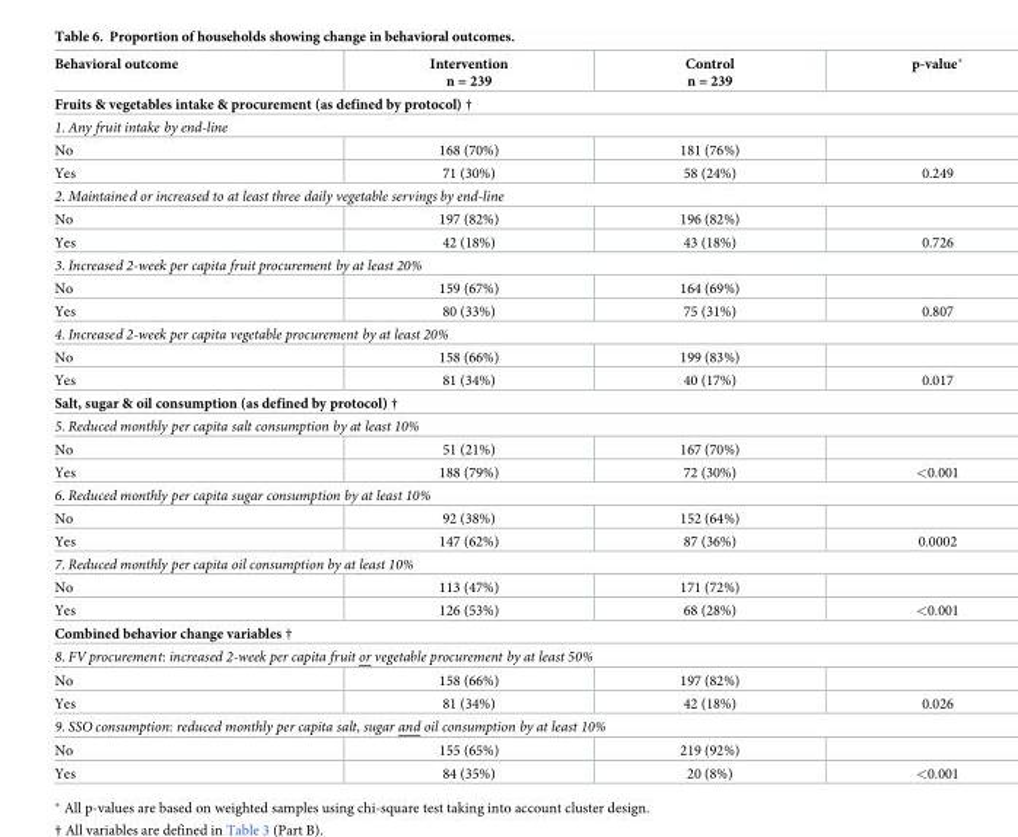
<table><thead><tr><td>Behavioral outcome</td><td>Intervention n = 239</td><td>Control n = 239</td><td>p-value*</td></tr></thead><tbody><tr><td colspan="4">Fruits &amp; vegetables intake &amp; procurement (as defined by protocol) †</td></tr><tr><td colspan="4">1. Any fruit intake by end-line</td></tr><tr><td>No</td><td>168 (70%)</td><td>181 (76%)</td><td></td></tr><tr><td>Yes</td><td>71 (30%)</td><td>58 (24%)</td><td>0.249</td></tr><tr><td colspan="4">2. Maintained or increased to at least three daily vegetable servings by end-line</td></tr><tr><td>No</td><td>197 (82%)</td><td>196 (82%)</td><td></td></tr><tr><td>Yes</td><td>42 (18%)</td><td>43 (18%)</td><td>0.726</td></tr><tr><td colspan="4">3. Increased 2-week per capita fruit procurement by at least 20%</td></tr><tr><td>No</td><td>159 (67%)</td><td>164 (69%)</td><td></td></tr><tr><td>Yes</td><td>80 (33%)</td><td>75 (31%)</td><td>0.807</td></tr><tr><td colspan="4">4. Increased 2-week per capita vegetable procurement by at least 20%</td></tr><tr><td>No</td><td>158 (66%)</td><td>199 (83%)</td><td></td></tr><tr><td>Yes</td><td>81 (34%)</td><td>40 (17%)</td><td>0.017</td></tr><tr><td colspan="4">Salt, sugar &amp; oil consumption (as defined by protocol) †</td></tr><tr><td colspan="4">5. Reduced monthly per capita salt consumption by at least 10%</td></tr><tr><td>No</td><td>51 (21%)</td><td>167 (70%)</td><td></td></tr><tr><td>Yes</td><td>188 (79%)</td><td>72 (30%)</td><td>&lt;0.001</td></tr><tr><td colspan="4">6. Reduced monthly per capita sugar consumption by at least 10%</td></tr><tr><td>No</td><td>92 (38%)</td><td>152 (64%)</td><td></td></tr><tr><td>Yes</td><td>147 (62%)</td><td>87 (36%)</td><td>0.0002</td></tr><tr><td colspan="4">7. Reduced monthly per capita oil consumption by at least 10%</td></tr><tr><td>No</td><td>113 (47%)</td><td>171 (72%)</td><td></td></tr><tr><td>Yes</td><td>126 (53%)</td><td>68 (28%)</td><td>&lt;0.001</td></tr><tr><td colspan="4">Combined behavior change variables †</td></tr><tr><td colspan="4">8. FV procurement: increased 2-week per capita fruit or vegetable procurement by at least 50%</td></tr><tr><td>No</td><td>158 (66%)</td><td>197 (82%)</td><td></td></tr><tr><td>Yes</td><td>81 (34%)</td><td>42 (18%)</td><td>0.026</td></tr><tr><td colspan="4">9. SSO consumption: reduced monthly per capita salt, sugar and oil consumption by at least 10%</td></tr><tr><td>No</td><td>155 (65%)</td><td>219 (92%)</td><td></td></tr><tr><td>Yes</td><td>84 (35%)</td><td>20 (8%)</td><td>&lt;0.001</td></tr></tbody></table>